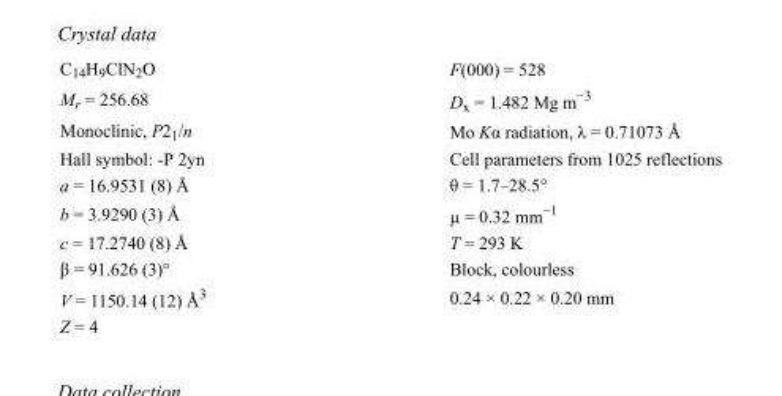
<table><tbody><tr><td>C<sub>14</sub>H<sub>9</sub>ClN<sub>2</sub>O</td><td>F(000) = 528</td></tr><tr><td>M<sub>r</sub> = 256.68</td><td>D<sub>x</sub> = 1.482 Mg m<sup>−3</sup></td></tr><tr><td>Monoclinic, P2<sub>1</sub>/n</td><td>Mo Kα radiation, λ = 0.71073 Å</td></tr><tr><td>Hall symbol: -P 2yn</td><td>Cell parameters from 1025 reflections</td></tr><tr><td>a = 16.9531 (8) Å</td><td>θ = 1.7–28.5°</td></tr><tr><td>b = 3.9290 (3) Å</td><td>µ = 0.32 mm<sup>−1</sup></td></tr><tr><td>c = 17.2740 (8) Å</td><td>T = 293 K</td></tr><tr><td>β = 91.626 (3)°</td><td>Block, colourless</td></tr><tr><td>V = 1150.14 (12) Å<sup>3</sup></td><td>0.24 × 0.22 × 0.20 mm</td></tr><tr><td>Z = 4</td><td></td></tr></tbody></table>